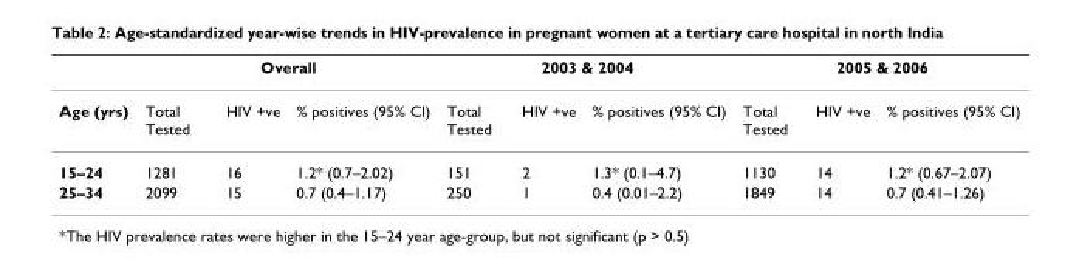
<table><thead><tr><td rowspan="2">Age (yrs)</td><td colspan="3">Overall</td><td colspan="3">2003 &amp; 2004</td><td colspan="3">2005 &amp; 2006</td></tr><tr><td>Total Tested</td><td>HIV +ve</td><td>% positives (95% CI)</td><td>Total Tested</td><td>HIV +ve</td><td>% positives (95% CI)</td><td>Total Tested</td><td>HIV +ve</td><td>% positives (95% CI)</td></tr></thead><tbody><tr><td>15–24</td><td>1281</td><td>16</td><td>1.2* (0.7–2.02)</td><td>151</td><td>2</td><td>1.3* (0.1–4.7)</td><td>1130</td><td>14</td><td>1.2* (0.67–2.07)</td></tr><tr><td>25–34</td><td>2099</td><td>15</td><td>0.7 (0.4–1.17)</td><td>250</td><td>1</td><td>0.4 (0.01–2.2)</td><td>1849</td><td>14</td><td>0.7 (0.41–1.26)</td></tr></tbody></table>